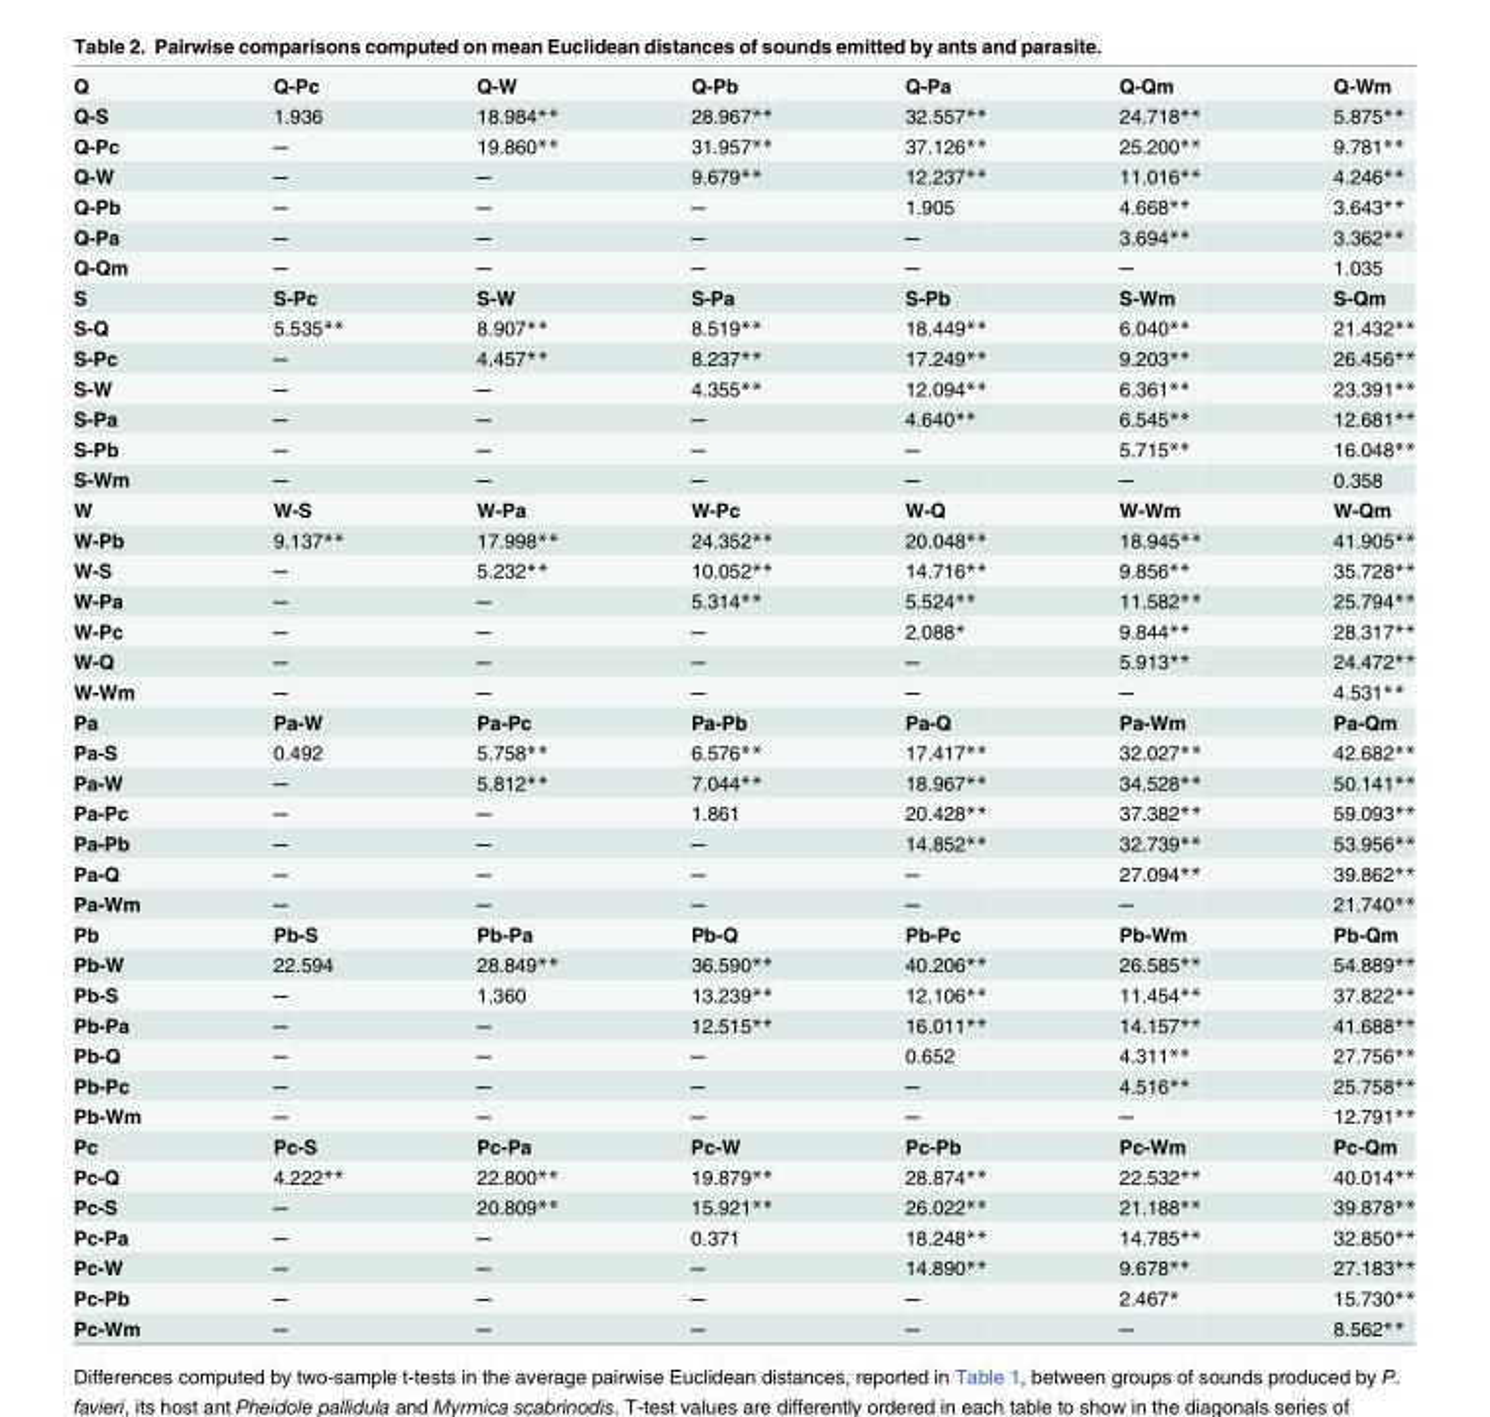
<table><tbody><tr><td>Q</td><td>Q-Pc</td><td>Q-W</td><td>Q-Pb</td><td>Q-Pa</td><td>Q-Qm</td><td>Q-Wm</td></tr><tr><td>Q-S</td><td>1.936</td><td>18.984**</td><td>28.967**</td><td>32.557**</td><td>24.718**</td><td>5.875**</td></tr><tr><td>Q-Pc</td><td>─</td><td>19.860**</td><td>31.957**</td><td>37.126**</td><td>25.200**</td><td>9.781**</td></tr><tr><td>Q-W</td><td>─</td><td>─</td><td>9.679**</td><td>12.237**</td><td>11.016**</td><td>4.246**</td></tr><tr><td>Q-Pb</td><td>─</td><td>─</td><td>─</td><td>1.905</td><td>4.668**</td><td>3.643**</td></tr><tr><td>Q-Pa</td><td>─</td><td>─</td><td>─</td><td>─</td><td>3.694**</td><td>3.362**</td></tr><tr><td>Q-Qm</td><td>─</td><td>─</td><td>─</td><td>─</td><td>─</td><td>1.035</td></tr><tr><td>S</td><td>S-Pc</td><td>S-W</td><td>S-Pa</td><td>S-Pb</td><td>S-Wm</td><td>S-Qm</td></tr><tr><td>S-Q</td><td>5.535**</td><td>8.907**</td><td>8.519**</td><td>18.449**</td><td>6.040**</td><td>21.432**</td></tr><tr><td>S-Pc</td><td>─</td><td>4.457**</td><td>8.237**</td><td>17.249**</td><td>9.203**</td><td>26.456**</td></tr><tr><td>S-W</td><td>─</td><td>─</td><td>4.355**</td><td>12.094**</td><td>6.361**</td><td>23.391**</td></tr><tr><td>S-Pa</td><td>─</td><td>─</td><td>─</td><td>4.640**</td><td>6.545**</td><td>12.681**</td></tr><tr><td>S-Pb</td><td>─</td><td>─</td><td>─</td><td>─</td><td>5.715**</td><td>16.048**</td></tr><tr><td>S-Wm</td><td>─</td><td>─</td><td>─</td><td>─</td><td>─</td><td>0.358</td></tr><tr><td>W</td><td>W-S</td><td>W-Pa</td><td>W-Pc</td><td>W-Q</td><td>W-Wm</td><td>W-Qm</td></tr><tr><td>W-Pb</td><td>9.137**</td><td>17.998**</td><td>24.352**</td><td>20.048**</td><td>18.945**</td><td>41.905**</td></tr><tr><td>W-S</td><td>─</td><td>5.232**</td><td>10.052**</td><td>14.716**</td><td>9.856**</td><td>35.728**</td></tr><tr><td>W-Pa</td><td>─</td><td>─</td><td>5.314**</td><td>5.524**</td><td>11.582**</td><td>25.794**</td></tr><tr><td>W-Pc</td><td>─</td><td>─</td><td>─</td><td>2.088*</td><td>9.844**</td><td>28.317**</td></tr><tr><td>W-Q</td><td>─</td><td>─</td><td>─</td><td>─</td><td>5.913**</td><td>24.472**</td></tr><tr><td>W-Wm</td><td>─</td><td>─</td><td>─</td><td>─</td><td>─</td><td>4.531**</td></tr><tr><td>Pa</td><td>Pa-W</td><td>Pa-Pc</td><td>Pa-Pb</td><td>Pa-Q</td><td>Pa-Wm</td><td>Pa-Qm</td></tr><tr><td>Pa-S</td><td>0.492</td><td>5.758**</td><td>6.576**</td><td>17.417**</td><td>32.027**</td><td>42.682**</td></tr><tr><td>Pa-W</td><td>─</td><td>5.812**</td><td>7.044**</td><td>18.967**</td><td>34.528**</td><td>50.141**</td></tr><tr><td>Pa-Pc</td><td>─</td><td>─</td><td>1.861</td><td>20.428**</td><td>37.382**</td><td>59.093**</td></tr><tr><td>Pa-Pb</td><td>─</td><td>─</td><td>─</td><td>14.852**</td><td>32.739**</td><td>53.956**</td></tr><tr><td>Pa-Q</td><td>─</td><td>─</td><td>─</td><td>─</td><td>27.094**</td><td>39.862**</td></tr><tr><td>Pa-Wm</td><td>─</td><td>─</td><td>─</td><td>─</td><td>─</td><td>21.740**</td></tr><tr><td>Pb</td><td>Pb-S</td><td>Pb-Pa</td><td>Pb-Q</td><td>Pb-Pc</td><td>Pb-Wm</td><td>Pb-Qm</td></tr><tr><td>Pb-W</td><td>22.594</td><td>28.849**</td><td>36.590**</td><td>40.206**</td><td>26.585**</td><td>54.889**</td></tr><tr><td>Pb-S</td><td>─</td><td>1.360</td><td>13.239**</td><td>12.106**</td><td>11.454**</td><td>37.822**</td></tr><tr><td>Pb-Pa</td><td>─</td><td>─</td><td>12.515**</td><td>16.011**</td><td>14.157**</td><td>41.688**</td></tr><tr><td>Pb-Q</td><td>─</td><td>─</td><td>─</td><td>0.652</td><td>4.311**</td><td>27.756**</td></tr><tr><td>Pb-Pc</td><td>─</td><td>─</td><td>─</td><td>─</td><td>4.516**</td><td>25.758**</td></tr><tr><td>Pb-Wm</td><td>─</td><td>─</td><td>─</td><td>─</td><td>─</td><td>12.791**</td></tr><tr><td>Pc</td><td>Pc-S</td><td>Pc-Pa</td><td>Pc-W</td><td>Pc-Pb</td><td>Pc-Wm</td><td>Pc-Qm</td></tr><tr><td>Pc-Q</td><td>4.222**</td><td>22.800**</td><td>19.879**</td><td>28.874**</td><td>22.532**</td><td>40.014**</td></tr><tr><td>Pc-S</td><td>─</td><td>20.809**</td><td>15.921**</td><td>26.022**</td><td>21.188**</td><td>39.878**</td></tr><tr><td>Pc-Pa</td><td>─</td><td>─</td><td>0.371</td><td>18.248**</td><td>14.785**</td><td>32.850**</td></tr><tr><td>Pc-W</td><td>─</td><td>─</td><td>─</td><td>14.890**</td><td>9.678**</td><td>27.183**</td></tr><tr><td>Pc-Pb</td><td>─</td><td>─</td><td>─</td><td>─</td><td>2.467*</td><td>15.730**</td></tr><tr><td>Pc-Wm</td><td>─</td><td>─</td><td>─</td><td>─</td><td>─</td><td>8.562**</td></tr></tbody></table>